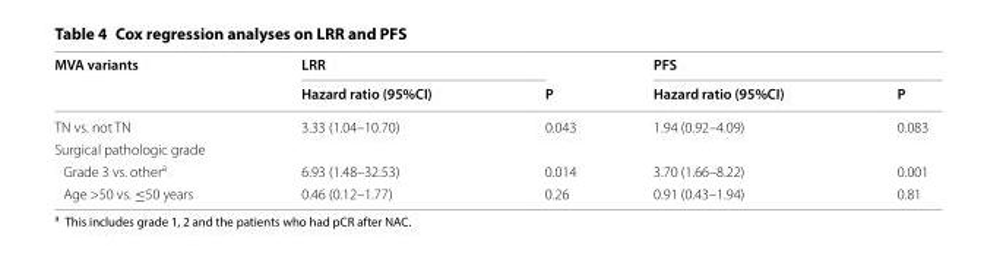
<table><thead><tr><td rowspan="2">MVA variants</td><td colspan="2">LRR</td><td colspan="2">PFS</td></tr><tr><td>Hazard ratio (95%CI)</td><td>P</td><td>Hazard ratio (95%CI)</td><td>P</td></tr></thead><tbody><tr><td>TN vs. not TN</td><td>3.33 (1.04–10.70)</td><td>0.043</td><td>1.94 (0.92–4.09)</td><td>0.083</td></tr><tr><td colspan="5">Surgical pathologic grade</td></tr><tr><td>Grade 3 vs. other<sup>a</sup></td><td>6.93 (1.48–32.53)</td><td>0.014</td><td>3.70 (1.66–8.22)</td><td>0.001</td></tr><tr><td>Age &gt;50 vs. ≤50 years</td><td>0.46 (0.12–1.77)</td><td>0.26</td><td>0.91 (0.43–1.94)</td><td>0.81</td></tr></tbody></table>